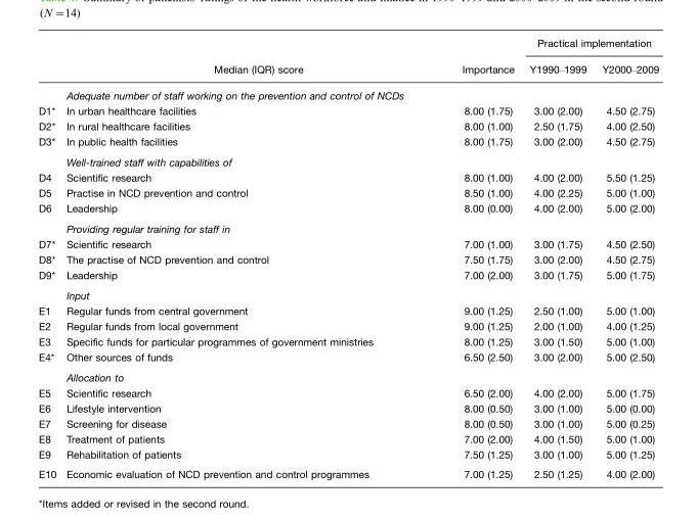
<table><thead><tr><td rowspan="2"></td><td rowspan="2">Median (IQR) score</td><td rowspan="2">Importance</td><td colspan="2">Practical implementation</td></tr><tr><td>Y1990–1999</td><td>Y2000–2009</td></tr></thead><tbody><tr><td></td><td>Adequate number of staff working on the prevention and control of NCDs</td><td></td><td></td><td></td></tr><tr><td>D1*</td><td>In urban healthcare facilities</td><td>8.00 (1.75)</td><td>3.00 (2.00)</td><td>4.50 (2.75)</td></tr><tr><td>D2*</td><td>In rural healthcare facilities</td><td>8.00 (1.00)</td><td>2.50 (1.75)</td><td>4.00 (2.50)</td></tr><tr><td rowspan="2">D3*</td><td>In public health facilities</td><td>8.00 (1.75)</td><td>3.00 (2.00)</td><td>4.50 (2.75)</td></tr><tr><td>Well-trained staff with capabilities of</td><td></td><td></td><td></td></tr><tr><td>D4</td><td>Scientific research</td><td>8.00 (1.00)</td><td>4.00 (2.00)</td><td>5.50 (1.25)</td></tr><tr><td>D5</td><td>Practise in NCD prevention and control</td><td>8.50 (1.00)</td><td>4.00 (2.25)</td><td>5.00 (1.00)</td></tr><tr><td rowspan="2">D6</td><td>Leadership</td><td>8.00 (0.00)</td><td>4.00 (2.00)</td><td>5.00 (2.00)</td></tr><tr><td>Providing regular training for staff in</td><td></td><td></td><td></td></tr><tr><td>D7*</td><td>Scientific research</td><td>7.00 (1.00)</td><td>3.00 (1.75)</td><td>4.50 (2.50)</td></tr><tr><td>D8*</td><td>The practise of NCD prevention and control</td><td>7.50 (1.75)</td><td>3.00 (2.00)</td><td>4.50 (2.75)</td></tr><tr><td rowspan="2">D9*</td><td>Leadership</td><td>7.00 (2.00)</td><td>3.00 (1.75)</td><td>5.00 (1.75)</td></tr><tr><td>Input</td><td></td><td></td><td></td></tr><tr><td>E1</td><td>Regular funds from central government</td><td>9.00 (1.25)</td><td>2.50 (1.00)</td><td>5.00 (1.00)</td></tr><tr><td>E2</td><td>Regular funds from local government</td><td>9.00 (1.25)</td><td>2.00 (1.00)</td><td>4.00 (1.25)</td></tr><tr><td>E3</td><td>Specific funds for particular programmes of government ministries</td><td>8.00 (1.25)</td><td>3.00 (1.50)</td><td>5.00 (1.00)</td></tr><tr><td rowspan="2">E4*</td><td>Other sources of funds</td><td>6.50 (2.50)</td><td>3.00 (2.00)</td><td>5.00 (2.50)</td></tr><tr><td>Allocation to</td><td></td><td></td><td></td></tr><tr><td>E5</td><td>Scientific research</td><td>6.50 (2.00)</td><td>4.00 (2.00)</td><td>5.00 (1.75)</td></tr><tr><td>E6</td><td>Lifestyle intervention</td><td>8.00 (0.50)</td><td>3.00 (1.00)</td><td>5.00 (0.00)</td></tr><tr><td>E7</td><td>Screening for disease</td><td>8.00 (0.50)</td><td>3.00 (1.00)</td><td>5.00 (0.25)</td></tr><tr><td>E8</td><td>Treatment of patients</td><td>7.00 (2.00)</td><td>4.00 (1.50)</td><td>5.00 (1.00)</td></tr><tr><td>E9</td><td>Rehabilitation of patients</td><td>7.50 (1.25)</td><td>3.00 (1.00)</td><td>5.00 (1.25)</td></tr><tr><td>E10</td><td>Economic evaluation of NCD prevention and control programmes</td><td>7.00 (1.25)</td><td>2.50 (1.25)</td><td>4.00 (2.00)</td></tr></tbody></table>